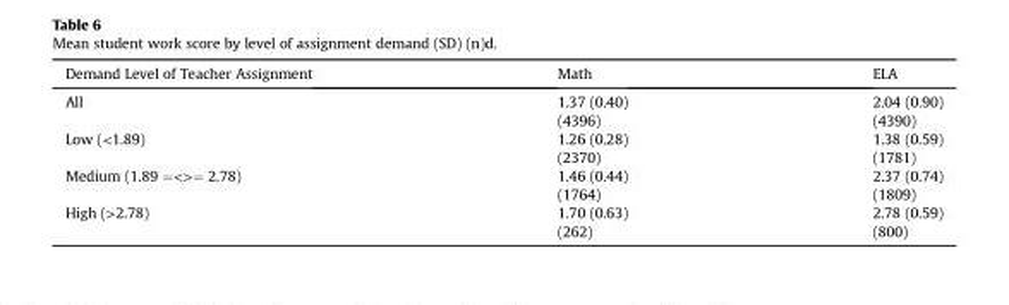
<table><thead><tr><td>Demand Level of Teacher Assignment</td><td>Math</td><td>ELA</td></tr></thead><tbody><tr><td>All</td><td>1.37 (0.40) (4396)</td><td>2.04 (0.90) (4390)</td></tr><tr><td>Low (&lt;1.89)</td><td>1.26 (0.28) (2370)</td><td>1.38 (0.59) (1781)</td></tr><tr><td>Medium (1.89 =&lt;&gt;= 2.78)</td><td>1.46 (0.44) (1764)</td><td>2.37 (0.74) (1809)</td></tr><tr><td>High (&gt;2.78)</td><td>1.70 (0.63) (262)</td><td>2.78 (0.59) (800)</td></tr></tbody></table>